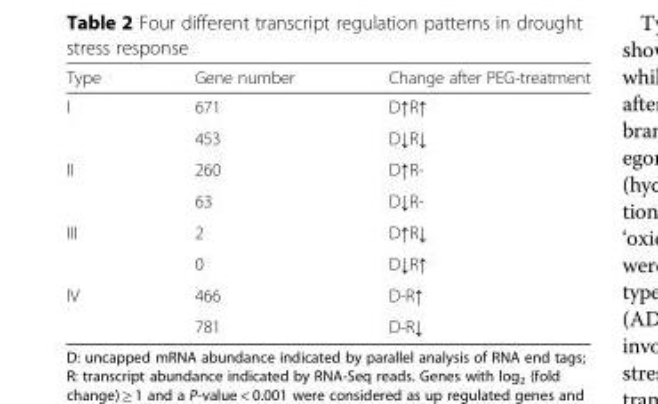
<table><thead><tr><td>Type</td><td>Gene number</td><td>Change after PEG-treatment</td></tr></thead><tbody><tr><td rowspan="2">I</td><td>671</td><td>D↑R↑</td></tr><tr><td>453</td><td>D↓R↓</td></tr><tr><td rowspan="2">II</td><td>260</td><td>D↑R-</td></tr><tr><td>63</td><td>D↓R-</td></tr><tr><td rowspan="2">III</td><td>2</td><td>D↑R↓</td></tr><tr><td>0</td><td>D↓R↑</td></tr><tr><td rowspan="2">IV</td><td>466</td><td>D-R↑</td></tr><tr><td>781</td><td>D-R↓</td></tr></tbody></table>